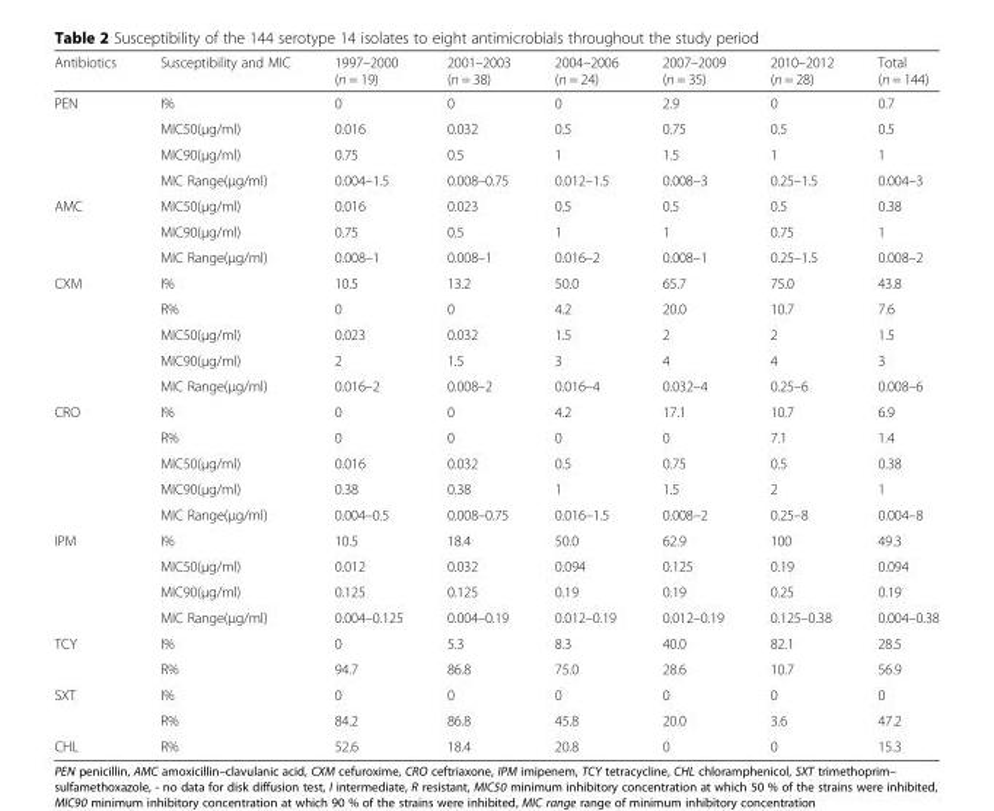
<table><thead><tr><td>Antibiotics</td><td>Susceptibility and MIC</td><td>1997–2000 (n = 19)</td><td>2001–2003 (n = 38)</td><td>2004–2006 (n = 24)</td><td>2007–2009 (n = 35)</td><td>2010–2012 (n = 28)</td><td>Total (n = 144)</td></tr></thead><tbody><tr><td rowspan="4">PEN</td><td>I%</td><td>0</td><td>0</td><td>0</td><td>2.9</td><td>0</td><td>0.7</td></tr><tr><td>MIC50(μg/ml)</td><td>0.016</td><td>0.032</td><td>0.5</td><td>0.75</td><td>0.5</td><td>0.5</td></tr><tr><td>MIC90(μg/ml)</td><td>0.75</td><td>0.5</td><td>1</td><td>1.5</td><td>1</td><td>1</td></tr><tr><td>MIC Range(μg/ml)</td><td>0.004–1.5</td><td>0.008–0.75</td><td>0.012–1.5</td><td>0.008–3</td><td>0.25–1.5</td><td>0.004–3</td></tr><tr><td rowspan="3">AMC</td><td>MIC50(μg/ml)</td><td>0.016</td><td>0.023</td><td>0.5</td><td>0.5</td><td>0.5</td><td>0.38</td></tr><tr><td>MIC90(μg/ml)</td><td>0.75</td><td>0.5</td><td>1</td><td>1</td><td>0.75</td><td>1</td></tr><tr><td>MIC Range(μg/ml)</td><td>0.008–1</td><td>0.008–1</td><td>0.016–2</td><td>0.008–1</td><td>0.25–1.5</td><td>0.008–2</td></tr><tr><td rowspan="5">CXM</td><td>I%</td><td>10.5</td><td>13.2</td><td>50.0</td><td>65.7</td><td>75.0</td><td>43.8</td></tr><tr><td>R%</td><td>0</td><td>0</td><td>4.2</td><td>20.0</td><td>10.7</td><td>7.6</td></tr><tr><td>MIC50(μg/ml)</td><td>0.023</td><td>0.032</td><td>1.5</td><td>2</td><td>2</td><td>1.5</td></tr><tr><td>MIC90(μg/ml)</td><td>2</td><td>1.5</td><td>3</td><td>4</td><td>4</td><td>3</td></tr><tr><td>MIC Range(μg/ml)</td><td>0.016–2</td><td>0.008–2</td><td>0.016–4</td><td>0.032–4</td><td>0.25–6</td><td>0.008–6</td></tr><tr><td rowspan="5">CRO</td><td>I%</td><td>0</td><td>0</td><td>4.2</td><td>17.1</td><td>10.7</td><td>6.9</td></tr><tr><td>R%</td><td>0</td><td>0</td><td>0</td><td>0</td><td>7.1</td><td>1.4</td></tr><tr><td>MIC50(μg/ml)</td><td>0.016</td><td>0.032</td><td>0.5</td><td>0.75</td><td>0.5</td><td>0.38</td></tr><tr><td>MIC90(μg/ml)</td><td>0.38</td><td>0.38</td><td>1</td><td>1.5</td><td>2</td><td>1</td></tr><tr><td>MIC Range(μg/ml)</td><td>0.004–0.5</td><td>0.008–0.75</td><td>0.016–1.5</td><td>0.008–2</td><td>0.25–8</td><td>0.004–8</td></tr><tr><td rowspan="4">IPM</td><td>I%</td><td>10.5</td><td>18.4</td><td>50.0</td><td>62.9</td><td>100</td><td>49.3</td></tr><tr><td>MIC50(μg/ml)</td><td>0.012</td><td>0.032</td><td>0.094</td><td>0.125</td><td>0.19</td><td>0.094</td></tr><tr><td>MIC90(μg/ml)</td><td>0.125</td><td>0.125</td><td>0.19</td><td>0.19</td><td>0.25</td><td>0.19</td></tr><tr><td>MIC Range(μg/ml)</td><td>0.004–0.125</td><td>0.004–0.19</td><td>0.012–0.19</td><td>0.012–0.19</td><td>0.125–0.38</td><td>0.004–0.38</td></tr><tr><td rowspan="2">TCY</td><td>I%</td><td>0</td><td>5.3</td><td>8.3</td><td>40.0</td><td>82.1</td><td>28.5</td></tr><tr><td>R%</td><td>94.7</td><td>86.8</td><td>75.0</td><td>28.6</td><td>10.7</td><td>56.9</td></tr><tr><td rowspan="2">SXT</td><td>I%</td><td>0</td><td>0</td><td>0</td><td>0</td><td>0</td><td>0</td></tr><tr><td>R%</td><td>84.2</td><td>86.8</td><td>45.8</td><td>20.0</td><td>3.6</td><td>47.2</td></tr><tr><td>CHL</td><td>R%</td><td>52.6</td><td>18.4</td><td>20.8</td><td>0</td><td>0</td><td>15.3</td></tr></tbody></table>